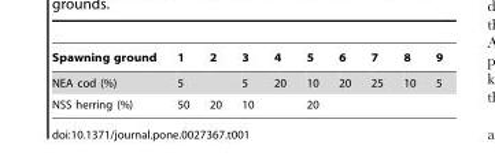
<table><thead><tr><td>Spawning ground</td><td>1</td><td>2</td><td>3</td><td>4</td><td>5</td><td>6</td><td>7</td><td>8</td><td>9</td></tr></thead><tbody><tr><td>NEA cod (%)</td><td>5</td><td></td><td>5</td><td>20</td><td>10</td><td>20</td><td>25</td><td>10</td><td>5</td></tr><tr><td>NSS herring (%)</td><td>50</td><td>20</td><td>10</td><td></td><td>20</td><td></td><td></td><td></td><td></td></tr></tbody></table>